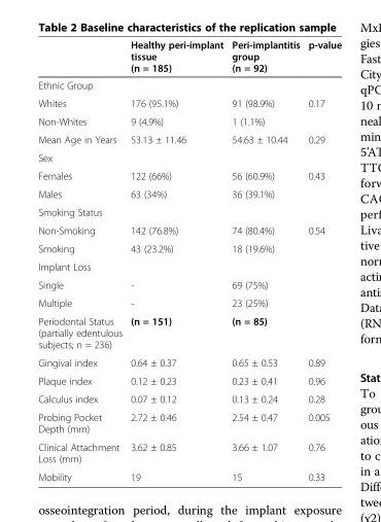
<table><thead><tr><td></td><td>Healthy peri-implant tissue (n = 185)</td><td>Peri-implantitis group (n = 92)</td><td>p-value</td></tr></thead><tbody><tr><td colspan="4">Ethnic Group</td></tr><tr><td>Whites</td><td>176 (95.1%)</td><td>91 (98.9%)</td><td rowspan="2">0.17</td></tr><tr><td>Non-Whites</td><td>9 (4.9%)</td><td>1 (1.1%)</td></tr><tr><td>Mean Age in Years</td><td>53.13 ± 11.46</td><td>54.63 ± 10.44</td><td>0.29</td></tr><tr><td colspan="4">Sex</td></tr><tr><td>Females</td><td>122 (66%)</td><td>56 (60.9%)</td><td rowspan="2">0.43</td></tr><tr><td>Males</td><td>63 (34%)</td><td>36 (39.1%)</td></tr><tr><td colspan="4">Smoking Status</td></tr><tr><td>Non-Smoking</td><td>142 (76.8%)</td><td>74 (80.4%)</td><td rowspan="2">0.54</td></tr><tr><td>Smoking</td><td>43 (23.2%)</td><td>18 (19.6%)</td></tr><tr><td colspan="4">Implant Loss</td></tr><tr><td>Single</td><td>-</td><td>69 (75%)</td><td></td></tr><tr><td>Multiple</td><td>-</td><td>23 (25%)</td><td></td></tr><tr><td>Periodontal Status (partially edentulous subjects; n = 236)</td><td>(n = 151)</td><td>(n = 85)</td><td></td></tr><tr><td>Gingival index</td><td>0.64 ± 0.37</td><td>0.65 ± 0.53</td><td>0.89</td></tr><tr><td>Plaque index</td><td>0.12 ± 0.23</td><td>0.23 ± 0.41</td><td>0.96</td></tr><tr><td>Calculus index</td><td>0.07 ± 0.12</td><td>0.13 ± 0.24</td><td>0.28</td></tr><tr><td>Probing Pocket Depth (mm)</td><td>2.72 ± 0.46</td><td>2.54 ± 0.47</td><td>0.005</td></tr><tr><td>Clinical Attachment Loss (mm)</td><td>3.62 ± 0.85</td><td>3.66 ± 1.07</td><td>0.76</td></tr><tr><td>Mobility</td><td>19</td><td>15</td><td>0.33</td></tr></tbody></table>